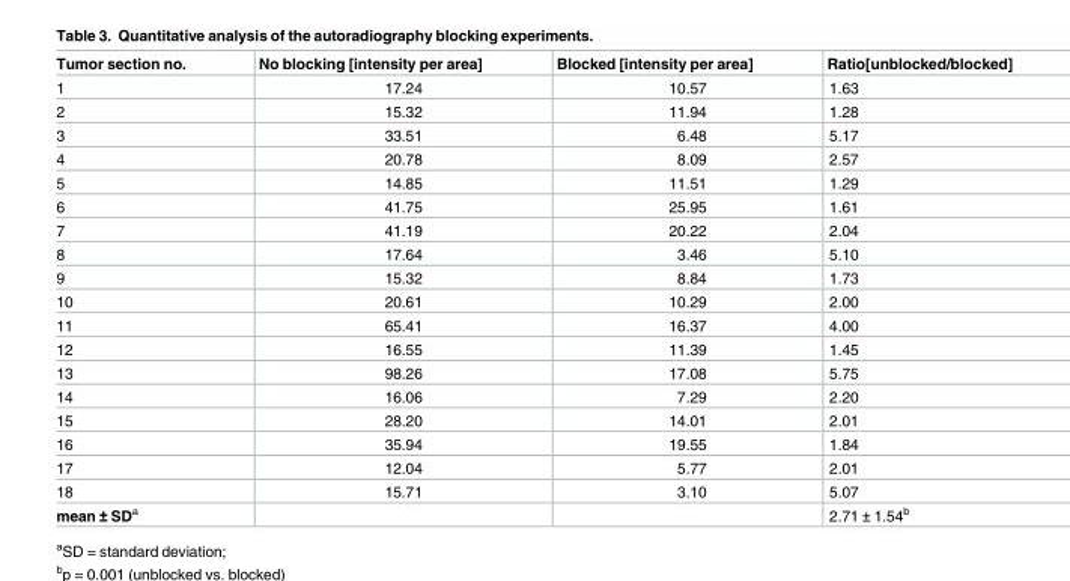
<table><thead><tr><td>Tumor section no.</td><td>No blocking [intensity per area]</td><td>Blocked [intensity per area]</td><td>Ratio[unblocked/blocked]</td></tr></thead><tbody><tr><td>1</td><td>17.24</td><td>10.57</td><td>1.63</td></tr><tr><td>2</td><td>15.32</td><td>11.94</td><td>1.28</td></tr><tr><td>3</td><td>33.51</td><td>6.48</td><td>5.17</td></tr><tr><td>4</td><td>20.78</td><td>8.09</td><td>2.57</td></tr><tr><td>5</td><td>14.85</td><td>11.51</td><td>1.29</td></tr><tr><td>6</td><td>41.75</td><td>25.95</td><td>1.61</td></tr><tr><td>7</td><td>41.19</td><td>20.22</td><td>2.04</td></tr><tr><td>8</td><td>17.64</td><td>3.46</td><td>5.10</td></tr><tr><td>9</td><td>15.32</td><td>8.84</td><td>1.73</td></tr><tr><td>10</td><td>20.61</td><td>10.29</td><td>2.00</td></tr><tr><td>11</td><td>65.41</td><td>16.37</td><td>4.00</td></tr><tr><td>12</td><td>16.55</td><td>11.39</td><td>1.45</td></tr><tr><td>13</td><td>98.26</td><td>17.08</td><td>5.75</td></tr><tr><td>14</td><td>16.06</td><td>7.29</td><td>2.20</td></tr><tr><td>15</td><td>28.20</td><td>14.01</td><td>2.01</td></tr><tr><td>16</td><td>35.94</td><td>19.55</td><td>1.84</td></tr><tr><td>17</td><td>12.04</td><td>5.77</td><td>2.01</td></tr><tr><td>18</td><td>15.71</td><td>3.10</td><td>5.07</td></tr><tr><td>mean ± SD<sup>a</sup></td><td></td><td></td><td>2.71 ± 1.54<sup>b</sup></td></tr></tbody></table>